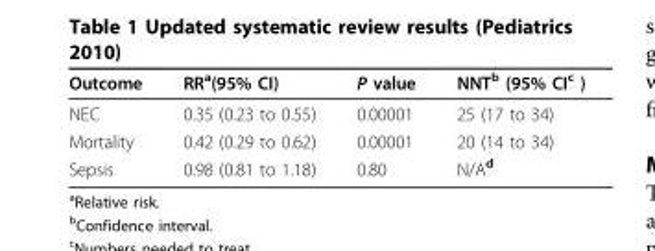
<table><thead><tr><td>Outcome</td><td>RR<sup>a</sup>(95% CI)</td><td>P value</td><td>NNT<sup>b</sup> (95% CI<sup>c</sup> )</td></tr></thead><tbody><tr><td>NEC</td><td>0.35 (0.23 to 0.55)</td><td>0.00001</td><td>25 (17 to 34)</td></tr><tr><td>Mortality</td><td>0.42 (0.29 to 0.62)</td><td>0.00001</td><td>20 (14 to 34)</td></tr><tr><td>Sepsis</td><td>0.98 (0.81 to 1.18)</td><td>0.80</td><td>N/A<sup>d</sup></td></tr></tbody></table>